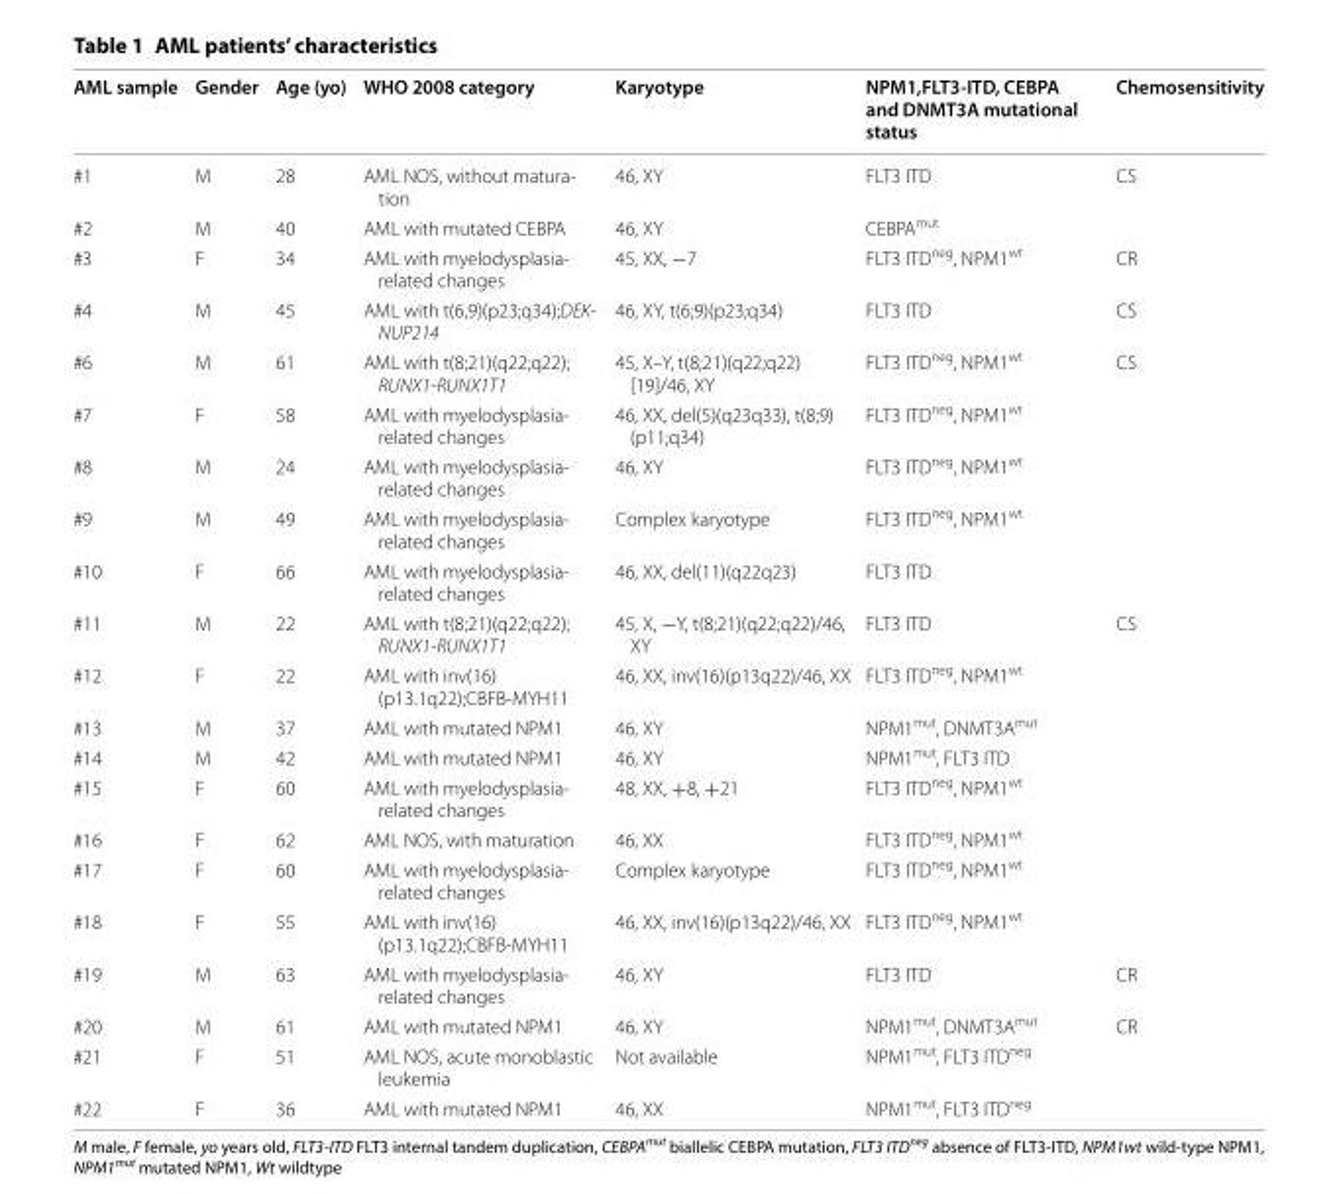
<table><thead><tr><td>AML sample</td><td>Gender</td><td>Age (yo)</td><td>WHO 2008 category</td><td>Karyotype</td><td>NPM1,FLT3-ITD, CEBPA and DNMT3A mutational status</td><td>Chemosensitivity</td></tr></thead><tbody><tr><td>#1</td><td>M</td><td>28</td><td>AML NOS, without matura‑ tion</td><td>46, XY</td><td>FLT3 ITD</td><td>CS</td></tr><tr><td>#2</td><td>M</td><td>40</td><td>AML with mutated CEBPA</td><td>46, XY</td><td>CEBPA<sup>mut</sup></td><td></td></tr><tr><td>#3</td><td>F</td><td>34</td><td>AML with myelodysplasia‑ related changes</td><td>45, XX, −7</td><td>FLT3 ITD<sup>neg</sup>, NPM1<sup>wt</sup></td><td>CR</td></tr><tr><td>#4</td><td>M</td><td>45</td><td>AML with t(6,9)(p23;q34);DEK‑ NUP214</td><td>46, XY, t(6;9)(p23;q34)</td><td>FLT3 ITD</td><td>CS</td></tr><tr><td>#6</td><td>M</td><td>61</td><td>AML with t(8;21)(q22;q22); RUNX1‑RUNX1T1</td><td>45, X–Y, t(8;21)(q22;q22) [19]/46, XY</td><td>FLT3 ITD<sup>neg</sup>, NPM1<sup>wt</sup></td><td>CS</td></tr><tr><td>#7</td><td>F</td><td>58</td><td>AML with myelodysplasia‑ related changes</td><td>46, XX, del(5)(q23q33), t(8;9) (p11;q34)</td><td>FLT3 ITD<sup>neg</sup>, NPM1<sup>wt</sup></td><td></td></tr><tr><td>#8</td><td>M</td><td>24</td><td>AML with myelodysplasia‑ related changes</td><td>46, XY</td><td>FLT3 ITD<sup>neg</sup>, NPM1<sup>wt</sup></td><td></td></tr><tr><td>#9</td><td>M</td><td>49</td><td>AML with myelodysplasia‑ related changes</td><td>Complex karyotype</td><td>FLT3 ITD<sup>neg</sup>, NPM1<sup>wt</sup></td><td></td></tr><tr><td>#10</td><td>F</td><td>66</td><td>AML with myelodysplasia‑ related changes</td><td>46, XX, del(11)(q22q23)</td><td>FLT3 ITD</td><td></td></tr><tr><td>#11</td><td>M</td><td>22</td><td>AML with t(8;21)(q22;q22); RUNX1‑RUNX1T1</td><td>45, X, −Y, t(8;21)(q22;q22)/46, XY</td><td>FLT3 ITD</td><td>CS</td></tr><tr><td>#12</td><td>F</td><td>22</td><td>AML with inv(16) (p13.1q22);CBFB‑MYH11</td><td>46, XX, inv(16)(p13q22)/46, XX</td><td>FLT3 ITD<sup>neg</sup>, NPM1<sup>wt</sup></td><td></td></tr><tr><td>#13</td><td>M</td><td>37</td><td>AML with mutated NPM1</td><td>46, XY</td><td>NPM1<sup>mut</sup>, DNMT3A<sup>mut</sup></td><td></td></tr><tr><td>#14</td><td>M</td><td>42</td><td>AML with mutated NPM1</td><td>46, XY</td><td>NPM1<sup>mut</sup>, FLT3 ITD</td><td></td></tr><tr><td>#15</td><td>F</td><td>60</td><td>AML with myelodysplasia‑ related changes</td><td>48, XX, +8, +21</td><td>FLT3 ITD<sup>neg</sup>, NPM1<sup>wt</sup></td><td></td></tr><tr><td>#16</td><td>F</td><td>62</td><td>AML NOS, with maturation</td><td>46, XX</td><td>FLT3 ITD<sup>neg</sup>, NPM1<sup>wt</sup></td><td></td></tr><tr><td>#17</td><td>F</td><td>60</td><td>AML with myelodysplasia‑ related changes</td><td>Complex karyotype</td><td>FLT3 ITD<sup>neg</sup>, NPM1<sup>wt</sup></td><td></td></tr><tr><td>#18</td><td>F</td><td>55</td><td>AML with inv(16) (p13.1q22);CBFB‑MYH11</td><td>46, XX, inv(16)(p13q22)/46, XX</td><td>FLT3 ITD<sup>neg</sup>, NPM1<sup>wt</sup></td><td></td></tr><tr><td>#19</td><td>M</td><td>63</td><td>AML with myelodysplasia‑ related changes</td><td>46, XY</td><td>FLT3 ITD</td><td>CR</td></tr><tr><td>#20</td><td>M</td><td>61</td><td>AML with mutated NPM1</td><td>46, XY</td><td>NPM1<sup>mut</sup>, DNMT3A<sup>mut</sup></td><td>CR</td></tr><tr><td>#21</td><td>F</td><td>51</td><td>AML NOS, acute monoblastic leukemia</td><td>Not available</td><td>NPM1<sup>mut</sup>, FLT3 ITD<sup>neg</sup></td><td></td></tr><tr><td>#22</td><td>F</td><td>36</td><td>AML with mutated NPM1</td><td>46, XX</td><td>NPM1<sup>mut</sup>, FLT3 ITD<sup>neg</sup></td><td></td></tr></tbody></table>